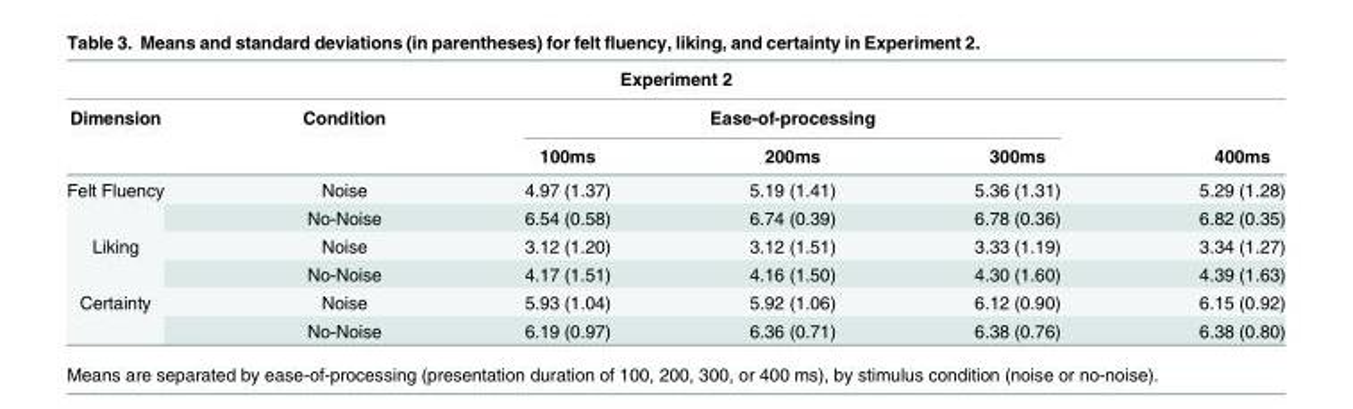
<table><thead><tr><td colspan="6">Experiment 2</td></tr><tr><td rowspan="2">Dimension</td><td rowspan="2">Condition</td><td colspan="3">Ease-of-processing</td><td rowspan="2">400ms</td></tr><tr><td>100ms</td><td>200ms</td><td>300ms</td></tr></thead><tbody><tr><td rowspan="2">Felt Fluency</td><td>Noise</td><td>4.97 (1.37)</td><td>5.19 (1.41)</td><td>5.36 (1.31)</td><td>5.29 (1.28)</td></tr><tr><td>No-Noise</td><td>6.54 (0.58)</td><td>6.74 (0.39)</td><td>6.78 (0.36)</td><td>6.82 (0.35)</td></tr><tr><td rowspan="2">Liking</td><td>Noise</td><td>3.12 (1.20)</td><td>3.12 (1.51)</td><td>3.33 (1.19)</td><td>3.34 (1.27)</td></tr><tr><td>No-Noise</td><td>4.17 (1.51)</td><td>4.16 (1.50)</td><td>4.30 (1.60)</td><td>4.39 (1.63)</td></tr><tr><td rowspan="2">Certainty</td><td>Noise</td><td>5.93 (1.04)</td><td>5.92 (1.06)</td><td>6.12 (0.90)</td><td>6.15 (0.92)</td></tr><tr><td>No-Noise</td><td>6.19 (0.97)</td><td>6.36 (0.71)</td><td>6.38 (0.76)</td><td>6.38 (0.80)</td></tr></tbody></table>